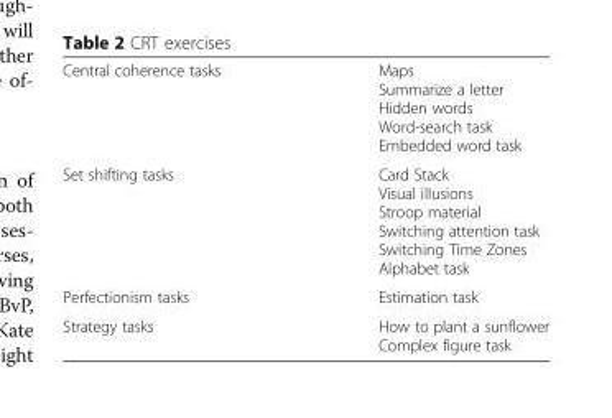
<table><tbody><tr><td>Central coherence tasks</td><td>Maps Summarize a letter Hidden words Word-search task Embedded word task</td></tr><tr><td>Set shifting tasks</td><td>Card Stack Visual illusions Stroop material Switching attention task Switching Time Zones Alphabet task</td></tr><tr><td>Perfectionism tasks</td><td>Estimation task</td></tr><tr><td>Strategy tasks</td><td>How to plant a sunflower Complex figure task</td></tr></tbody></table>